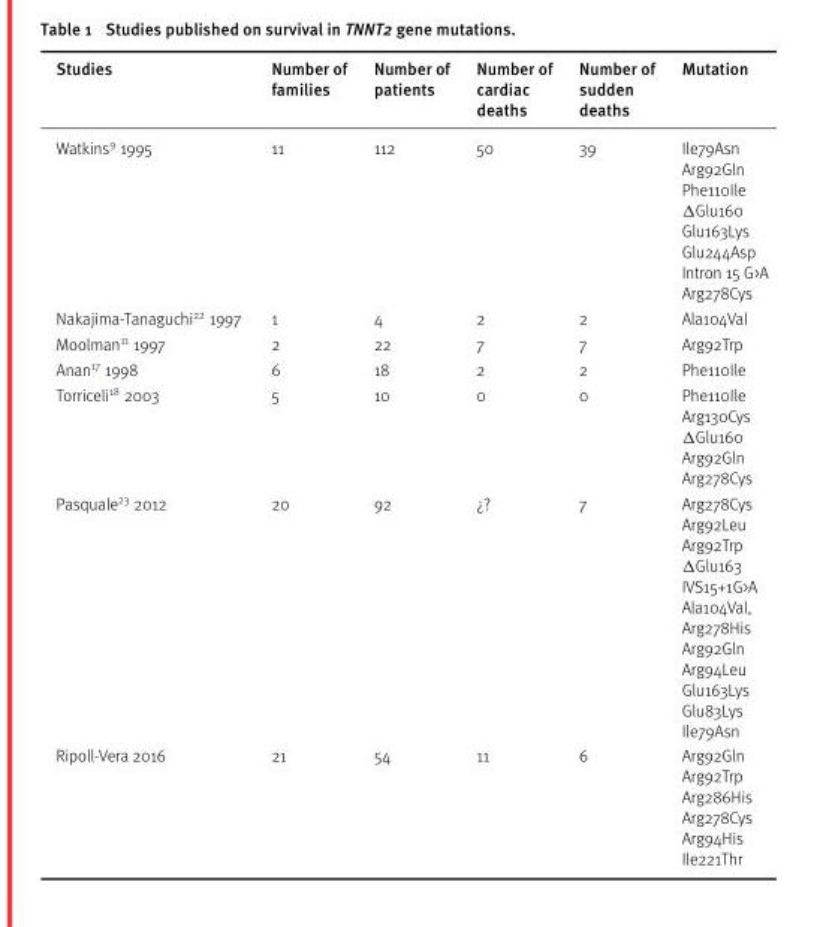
<table><thead><tr><td>Studies</td><td>Number of families</td><td>Number of patients</td><td>Number of cardiac deaths</td><td>Number of sudden deaths</td><td>Mutation</td></tr></thead><tbody><tr><td>Watkins<sup>9</sup> 1995</td><td>11</td><td>112</td><td>50</td><td>39</td><td>Ile79Asn Arg92Gln Phe110Ile ΔGlu160 Glu163Lys Glu244Asp Intron 15 G&gt;A Arg278Cys</td></tr><tr><td>Nakajima-Tanaguchi<sup>22</sup> 1997</td><td>1</td><td>4</td><td>2</td><td>2</td><td>Ala104Val</td></tr><tr><td>Moolman<sup>11</sup> 1997</td><td>2</td><td>22</td><td>7</td><td>7</td><td>Arg92Trp</td></tr><tr><td>Anan<sup>17</sup> 1998</td><td>6</td><td>18</td><td>2</td><td>2</td><td>Phe110Ile</td></tr><tr><td>Torriceli<sup>18</sup> 2003</td><td>5</td><td>10</td><td>0</td><td>0</td><td>Phe110Ile Arg130Cys ΔGlu160 Arg92Gln Arg278Cys</td></tr><tr><td>Pasquale<sup>23</sup> 2012</td><td>20</td><td>92</td><td>¿?</td><td>7</td><td>Arg278Cys Arg92Leu Arg92Trp ΔGlu163 IVS15+1G&gt;A Ala104Val, Arg278His Arg92Gln Arg94Leu Glu163Lys Glu83Lys Ile79Asn</td></tr><tr><td>Ripoll-Vera 2016</td><td>21</td><td>54</td><td>11</td><td>6</td><td>Arg92Gln Arg92Trp Arg286His Arg278Cys Arg94His Ile221Thr</td></tr></tbody></table>